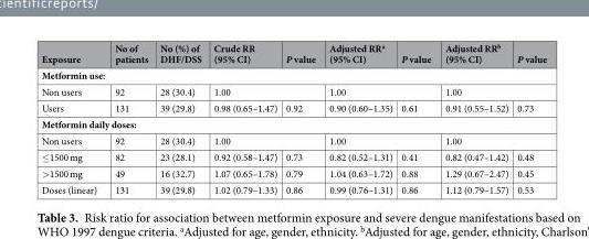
<table><thead><tr><td>Exposure</td><td>No of patients</td><td>No (%) of DHF/DSS</td><td>Crude RR (95% CI)</td><td>P value</td><td>Adjusted RR<sup>a</sup> (95% CI)</td><td>P value</td><td>Adjusted RR<sup>b</sup> (95% CI)</td><td>P value</td></tr></thead><tbody><tr><td colspan="9">Metformin use:</td></tr><tr><td>Non users</td><td>92</td><td>28 (30.4)</td><td colspan="2">1.00</td><td colspan="2">1.00</td><td colspan="2">1.00</td></tr><tr><td>Users</td><td>131</td><td>39 (29.8)</td><td>0.98 (0.65–1.47)</td><td>0.92</td><td>0.90 (0.60–1.35)</td><td>0.61</td><td>0.91 (0.55–1.52)</td><td>0.73</td></tr><tr><td colspan="9">Metformin daily doses:</td></tr><tr><td>Non users</td><td>92</td><td>28 (30.4)</td><td colspan="2">1.00</td><td colspan="2">1.00</td><td colspan="2">1.00</td></tr><tr><td>≤1500 mg</td><td>82</td><td>23 (28.1)</td><td>0.92 (0.58–1.47)</td><td>0.73</td><td>0.82 (0.52–1.31)</td><td>0.41</td><td>0.82 (0.47–1.42)</td><td>0.48</td></tr><tr><td>&gt;1500 mg</td><td>49</td><td>16 (32.7)</td><td>1.07 (0.65–1.78)</td><td>0.79</td><td>1.04 (0.63–1.72)</td><td>0.88</td><td>1.29 (0.67–2.47)</td><td>0.45</td></tr><tr><td>Doses (linear)</td><td>131</td><td>39 (29.8)</td><td>1.02 (0.79–1.33)</td><td>0.86</td><td>0.99 (0.76–1.31)</td><td>0.86</td><td>1.12 (0.79–1.57)</td><td>0.53</td></tr></tbody></table>